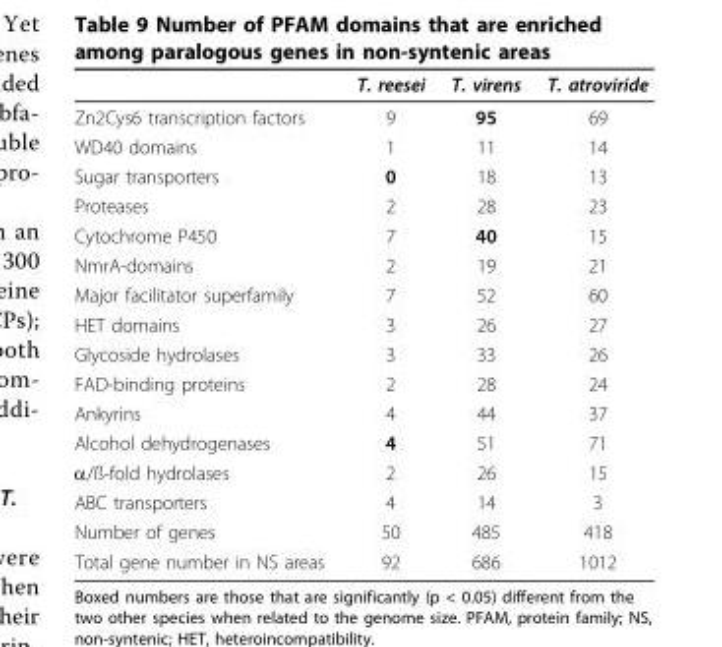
<table><thead><tr><td></td><td>T. reesei</td><td>T. virens</td><td>T. atroviride</td></tr></thead><tbody><tr><td>Zn2Cys6 transcription factors</td><td>9</td><td>95</td><td>69</td></tr><tr><td>WD40 domains</td><td>1</td><td>11</td><td>14</td></tr><tr><td>Sugar transporters</td><td>0</td><td>18</td><td>13</td></tr><tr><td>Proteases</td><td>2</td><td>28</td><td>23</td></tr><tr><td>Cytochrome P450</td><td>7</td><td>40</td><td>15</td></tr><tr><td>NmrA-domains</td><td>2</td><td>19</td><td>21</td></tr><tr><td>Major facilitator superfamily</td><td>7</td><td>52</td><td>60</td></tr><tr><td>HET domains</td><td>3</td><td>26</td><td>27</td></tr><tr><td>Glycoside hydrolases</td><td>3</td><td>33</td><td>26</td></tr><tr><td>FAD-binding proteins</td><td>2</td><td>28</td><td>24</td></tr><tr><td>Ankyrins</td><td>4</td><td>44</td><td>37</td></tr><tr><td>Alcohol dehydrogenases</td><td>4</td><td>51</td><td>71</td></tr><tr><td>α/ß-fold hydrolases</td><td>2</td><td>26</td><td>15</td></tr><tr><td>ABC transporters</td><td>4</td><td>14</td><td>3</td></tr><tr><td>Number of genes</td><td>50</td><td>485</td><td>418</td></tr><tr><td>Total gene number in NS areas</td><td>92</td><td>686</td><td>1012</td></tr></tbody></table>